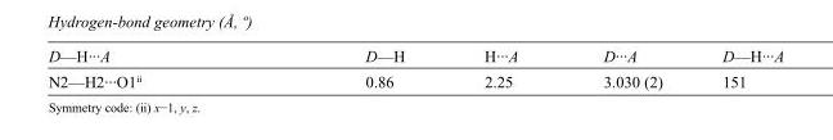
<table><tbody><tr><td>D—H···A</td><td>D—H</td><td>H···A</td><td>D···A</td><td>D—H···A</td></tr><tr><td>N2—H2···O1<sup>ii</sup></td><td>0.86</td><td>2.25</td><td>3.030 (2)</td><td>151</td></tr></tbody></table>